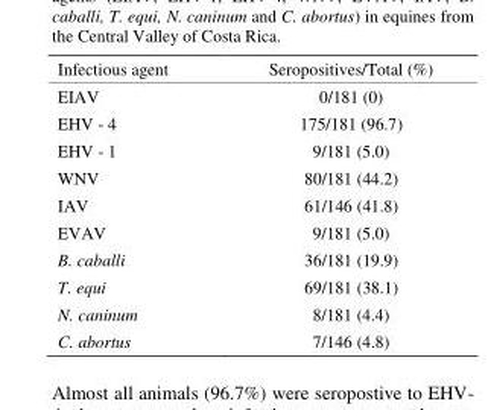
<table><thead><tr><td>Infectious agent</td><td>Seropositives/Total (%)</td></tr></thead><tbody><tr><td>EIAV</td><td>0/181 (0)</td></tr><tr><td>EHV - 4</td><td>175/181 (96.7)</td></tr><tr><td>EHV - 1</td><td>9/181 (5.0)</td></tr><tr><td>WNV</td><td>80/181 (44.2)</td></tr><tr><td>IAV</td><td>61/146 (41.8)</td></tr><tr><td>EVAV</td><td>9/181 (5.0)</td></tr><tr><td>B. caballi</td><td>36/181 (19.9)</td></tr><tr><td>T. equi</td><td>69/181 (38.1)</td></tr><tr><td>N. caninum</td><td>8/181 (4.4)</td></tr><tr><td>C. abortus</td><td>7/146 (4.8)</td></tr></tbody></table>